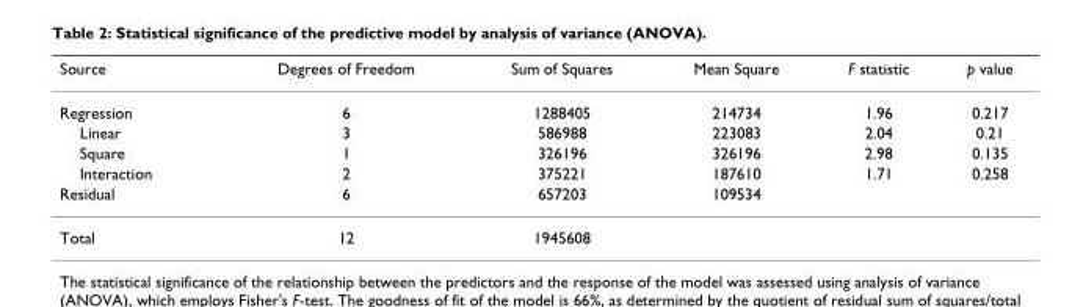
<table><thead><tr><td>Source</td><td>Degrees of Freedom</td><td>Sum of Squares</td><td>Mean Square</td><td>F statistic</td><td>p value</td></tr></thead><tbody><tr><td>Regression</td><td>6</td><td>1288405</td><td>214734</td><td>1.96</td><td>0.217</td></tr><tr><td>Linear</td><td>3</td><td>586988</td><td>223083</td><td>2.04</td><td>0.21</td></tr><tr><td>Square</td><td>1</td><td>326196</td><td>326196</td><td>2.98</td><td>0.135</td></tr><tr><td>Interaction</td><td>2</td><td>375221</td><td>187610</td><td>1.71</td><td>0.258</td></tr><tr><td>Residual</td><td>6</td><td>657203</td><td>109534</td><td></td><td></td></tr><tr><td>Total</td><td>12</td><td>1945608</td><td></td><td></td><td></td></tr></tbody></table>